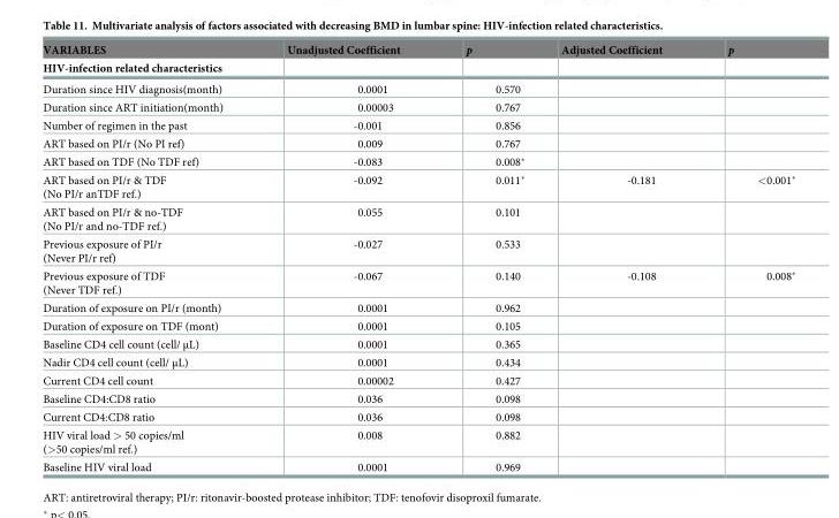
<table><thead><tr><td rowspan="2">VARIABLES HIV-infection related characteristics</td><td rowspan="2">Unadjusted Coefficient</td><td rowspan="2">p</td><td rowspan="2">Adjusted Coefficient</td><td rowspan="2">p</td></tr><tr></tr></thead><tbody><tr><td>Duration since HIV diagnosis(month)</td><td>0.0001</td><td>0.570</td><td></td><td></td></tr><tr><td>Duration since ART initiation(month)</td><td>0.00003</td><td>0.767</td><td></td><td></td></tr><tr><td>Number of regimen in the past</td><td>-0.001</td><td>0.856</td><td></td><td></td></tr><tr><td>ART based on PI/r (No PI ref)</td><td>0.009</td><td>0.767</td><td></td><td></td></tr><tr><td>ART based on TDF (No TDF ref)</td><td>-0.083</td><td>0.008*</td><td></td><td></td></tr><tr><td>ART based on PI/r &amp; TDF (No PI/r anTDF ref.)</td><td>-0.092</td><td>0.011*</td><td>-0.181</td><td>&lt;0.001*</td></tr><tr><td>ART based on PI/r &amp; no-TDF (No PI/r and no-TDF ref.)</td><td>0.055</td><td>0.101</td><td></td><td></td></tr><tr><td>Previous exposure of PI/r (Never PI/r ref)</td><td>-0.027</td><td>0.533</td><td></td><td></td></tr><tr><td>Previous exposure of TDF (Never TDF ref.)</td><td>-0.067</td><td>0.140</td><td>-0.108</td><td>0.008*</td></tr><tr><td>Duration of exposure on PI/r (month)</td><td>0.0001</td><td>0.962</td><td></td><td></td></tr><tr><td>Duration of exposure on TDF (mont)</td><td>0.0001</td><td>0.105</td><td></td><td></td></tr><tr><td>Baseline CD4 cell count (cell/ μL)</td><td>0.0001</td><td>0.365</td><td></td><td></td></tr><tr><td>Nadir CD4 cell count (cell/ μL)</td><td>0.0001</td><td>0.434</td><td></td><td></td></tr><tr><td>Current CD4 cell count</td><td>0.00002</td><td>0.427</td><td></td><td></td></tr><tr><td>Baseline CD4:CD8 ratio</td><td>0.036</td><td>0.098</td><td></td><td></td></tr><tr><td>Current CD4:CD8 ratio</td><td>0.036</td><td>0.098</td><td></td><td></td></tr><tr><td>HIV viral load &gt; 50 copies/ml (&gt;50 copies/ml ref.)</td><td>0.008</td><td>0.882</td><td></td><td></td></tr><tr><td>Baseline HIV viral load</td><td>0.0001</td><td>0.969</td><td></td><td></td></tr></tbody></table>